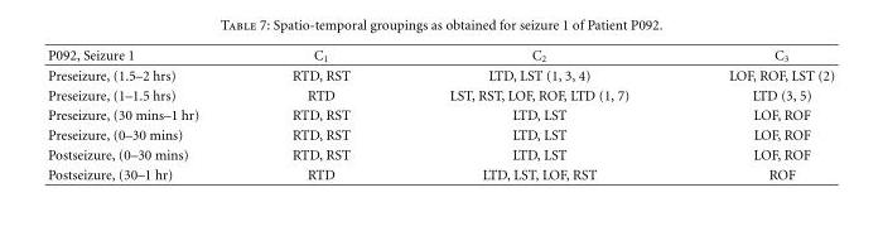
<table><thead><tr><td>P092, Seizure 1</td><td>C<sub>1</sub></td><td>C<sub>2</sub></td><td>C<sub>3</sub></td></tr></thead><tbody><tr><td>Preseizure, (1.5–2 hrs)</td><td>RTD, RST</td><td>LTD, LST (1, 3, 4)</td><td>LOF, ROF, LST (2)</td></tr><tr><td>Preseizure, (1–1.5 hrs)</td><td>RTD</td><td>LST, RST, LOF, ROF, LTD (1, 7)</td><td>LTD (3, 5)</td></tr><tr><td>Preseizure, (30 mins–1 hr)</td><td>RTD, RST</td><td>LTD, LST</td><td>LOF, ROF</td></tr><tr><td>Preseizure, (0–30 mins)</td><td>RTD, RST</td><td>LTD, LST</td><td>LOF, ROF</td></tr><tr><td>Postseizure, (0–30 mins)</td><td>RTD, RST</td><td>LTD, LST</td><td>LOF, ROF</td></tr><tr><td>Postseizure, (30–1 hr)</td><td>RTD</td><td>LTD, LST, LOF, RST</td><td>ROF</td></tr></tbody></table>